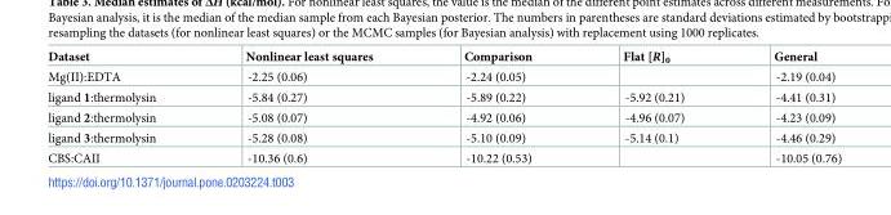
<table><thead><tr><td>Dataset</td><td>Nonlinear least squares</td><td>Comparison</td><td>Flat [R]<sub>0</sub></td><td>General</td></tr></thead><tbody><tr><td>Mg(II):EDTA</td><td>-2.25 (0.06)</td><td>-2.24 (0.05)</td><td></td><td>-2.19 (0.04)</td></tr><tr><td>ligand 1:thermolysin</td><td>-5.84 (0.27)</td><td>-5.89 (0.22)</td><td>-5.92 (0.21)</td><td>-4.41 (0.31)</td></tr><tr><td>ligand 2:thermolysin</td><td>-5.08 (0.07)</td><td>-4.92 (0.06)</td><td>-4.96 (0.07)</td><td>-4.23 (0.09)</td></tr><tr><td>ligand 3:thermolysin</td><td>-5.28 (0.08)</td><td>-5.10 (0.09)</td><td>-5.14 (0.1)</td><td>-4.46 (0.29)</td></tr><tr><td>CBS:CAII</td><td>-10.36 (0.6)</td><td>-10.22 (0.53)</td><td></td><td>-10.05 (0.76)</td></tr></tbody></table>